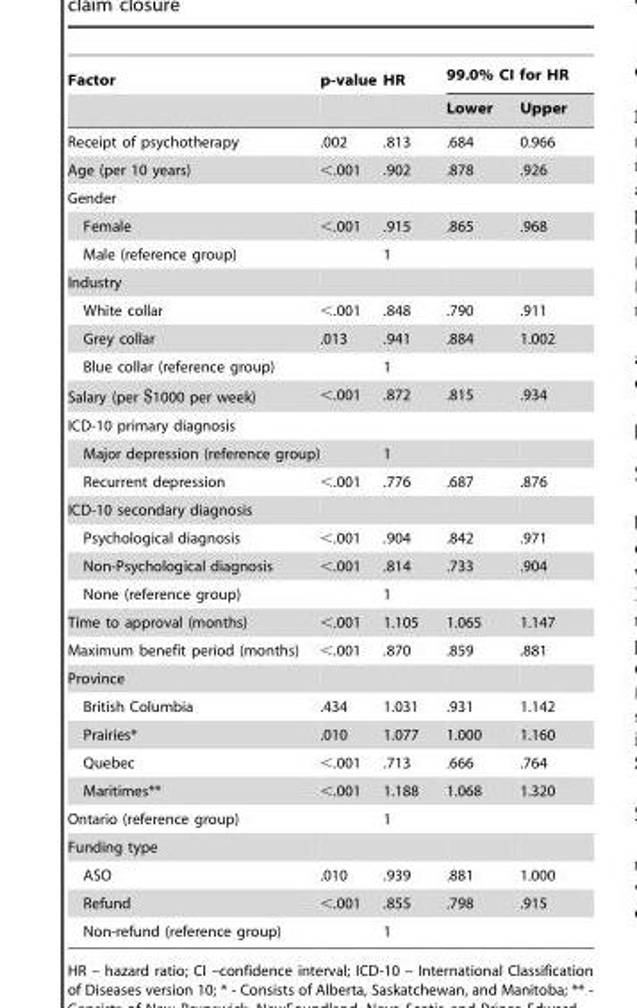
<table><thead><tr><td rowspan="2">Factor</td><td rowspan="2">p-value</td><td rowspan="2">HR</td><td colspan="2">99.0% CI for HR</td></tr><tr><td>Lower</td><td>Upper</td></tr></thead><tbody><tr><td>Receipt of psychotherapy</td><td>.002</td><td>.813</td><td>.684</td><td>0.966</td></tr><tr><td>Age (per 10 years)</td><td>&lt;.001</td><td>.902</td><td>.878</td><td>.926</td></tr><tr><td colspan="5">Gender</td></tr><tr><td>Female</td><td>&lt;.001</td><td>.915</td><td>.865</td><td>.968</td></tr><tr><td>Male (reference group)</td><td></td><td>1</td><td></td><td></td></tr><tr><td colspan="5">Industry</td></tr><tr><td>White collar</td><td>&lt;.001</td><td>.848</td><td>.790</td><td>.911</td></tr><tr><td>Grey collar</td><td>.013</td><td>.941</td><td>.884</td><td>1.002</td></tr><tr><td>Blue collar (reference group)</td><td></td><td>1</td><td></td><td></td></tr><tr><td>Salary (per $1000 per week)</td><td>&lt;.001</td><td>.872</td><td>.815</td><td>.934</td></tr><tr><td colspan="5">ICD-10 primary diagnosis</td></tr><tr><td>Major depression (reference group)</td><td></td><td>1</td><td></td><td></td></tr><tr><td>Recurrent depression</td><td>&lt;.001</td><td>.776</td><td>.687</td><td>.876</td></tr><tr><td colspan="5">ICD-10 secondary diagnosis</td></tr><tr><td>Psychological diagnosis</td><td>&lt;.001</td><td>.904</td><td>.842</td><td>.971</td></tr><tr><td>Non-Psychological diagnosis</td><td>&lt;.001</td><td>.814</td><td>.733</td><td>.904</td></tr><tr><td>None (reference group)</td><td></td><td>1</td><td></td><td></td></tr><tr><td>Time to approval (months)</td><td>&lt;.001</td><td>1.105</td><td>1.065</td><td>1.147</td></tr><tr><td>Maximum benefit period (months)</td><td>&lt;.001</td><td>.870</td><td>.859</td><td>.881</td></tr><tr><td colspan="5">Province</td></tr><tr><td>British Columbia</td><td>.434</td><td>1.031</td><td>.931</td><td>1.142</td></tr><tr><td>Prairies*</td><td>.010</td><td>1.077</td><td>1.000</td><td>1.160</td></tr><tr><td>Quebec</td><td>&lt;.001</td><td>.713</td><td>.666</td><td>.764</td></tr><tr><td>Maritimes**</td><td>&lt;.001</td><td>1.188</td><td>1.068</td><td>1.320</td></tr><tr><td>Ontario (reference group)</td><td></td><td>1</td><td></td><td></td></tr><tr><td colspan="5">Funding type</td></tr><tr><td>ASO</td><td>.010</td><td>.939</td><td>.881</td><td>1.000</td></tr><tr><td>Refund</td><td>&lt;.001</td><td>.855</td><td>.798</td><td>.915</td></tr><tr><td>Non-refund (reference group)</td><td></td><td>1</td><td></td><td></td></tr></tbody></table>